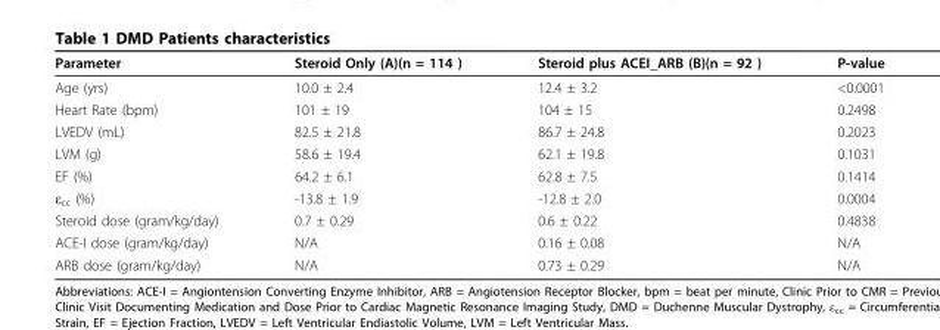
<table><thead><tr><td>Parameter</td><td>Steroid Only (A)(n = 114 )</td><td>Steroid plus ACEI_ARB (B)(n = 92 )</td><td>P-value</td></tr></thead><tbody><tr><td>Age (yrs)</td><td>10.0 ± 2.4</td><td>12.4 ± 3.2</td><td>&lt;0.0001</td></tr><tr><td>Heart Rate (bpm)</td><td>101 ± 19</td><td>104 ± 15</td><td>0.2498</td></tr><tr><td>LVEDV (mL)</td><td>82.5 ± 21.8</td><td>86.7 ± 24.8</td><td>0.2023</td></tr><tr><td>LVM (g)</td><td>58.6 ± 19.4</td><td>62.1 ± 19.8</td><td>0.1031</td></tr><tr><td>EF (%)</td><td>64.2 ± 6.1</td><td>62.8 ± 7.5</td><td>0.1414</td></tr><tr><td>ε<sub>cc</sub> (%)</td><td>-13.8 ± 1.9</td><td>-12.8 ± 2.0</td><td>0.0004</td></tr><tr><td>Steroid dose (gram/kg/day)</td><td>0.7 ± 0.29</td><td>0.6 ± 0.22</td><td>0.4838</td></tr><tr><td>ACE-I dose (gram/kg/day)</td><td>N/A</td><td>0.16 ± 0.08</td><td>N/A</td></tr><tr><td>ARB dose (gram/kg/day)</td><td>N/A</td><td>0.73 ± 0.29</td><td>N/A</td></tr></tbody></table>